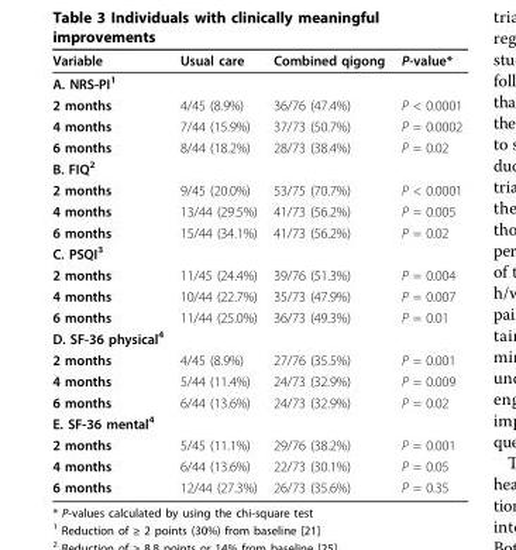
<table><thead><tr><td>Variable</td><td>Usual care</td><td>Combined qigong</td><td>P-value*</td></tr></thead><tbody><tr><td colspan="4">A. NRS-PI<sup>1</sup></td></tr><tr><td>2 months</td><td>4/45 (8.9%)</td><td>36/76 (47.4%)</td><td>P &lt; 0.0001</td></tr><tr><td>4 months</td><td>7/44 (15.9%)</td><td>37/73 (50.7%)</td><td>P = 0.0002</td></tr><tr><td>6 months</td><td>8/44 (18.2%)</td><td>28/73 (38.4%)</td><td>P = 0.02</td></tr><tr><td colspan="4">B. FIQ<sup>2</sup></td></tr><tr><td>2 months</td><td>9/45 (20.0%)</td><td>53/75 (70.7%)</td><td>P &lt; 0.0001</td></tr><tr><td>4 months</td><td>13/44 (29.5%)</td><td>41/73 (56.2%)</td><td>P = 0.005</td></tr><tr><td>6 months</td><td>15/44 (34.1%)</td><td>41/73 (56.2%)</td><td>P = 0.02</td></tr><tr><td colspan="4">C. PSQI<sup>3</sup></td></tr><tr><td>2 months</td><td>11/45 (24.4%)</td><td>39/76 (51.3%)</td><td>P = 0.004</td></tr><tr><td>4 months</td><td>10/44 (22.7%)</td><td>35/73 (47.9%)</td><td>P = 0.007</td></tr><tr><td>6 months</td><td>11/44 (25.0%)</td><td>36/73 (49.3%)</td><td>P = 0.01</td></tr><tr><td colspan="4">D. SF-36 physical<sup>4</sup></td></tr><tr><td>2 months</td><td>4/45 (8.9%)</td><td>27/76 (35.5%)</td><td>P = 0.001</td></tr><tr><td>4 months</td><td>5/44 (11.4%)</td><td>24/73 (32.9%)</td><td>P = 0.009</td></tr><tr><td>6 months</td><td>6/44 (13.6%)</td><td>24/73 (32.9%)</td><td>P = 0.02</td></tr><tr><td colspan="4">E. SF-36 mental<sup>4</sup></td></tr><tr><td>2 months</td><td>5/45 (11.1%)</td><td>29/76 (38.2%)</td><td>P = 0.001</td></tr><tr><td>4 months</td><td>6/44 (13.6%)</td><td>22/73 (30.1%)</td><td>P = 0.05</td></tr><tr><td>6 months</td><td>12/44 (27.3%)</td><td>26/73 (35.6%)</td><td>P = 0.35</td></tr></tbody></table>